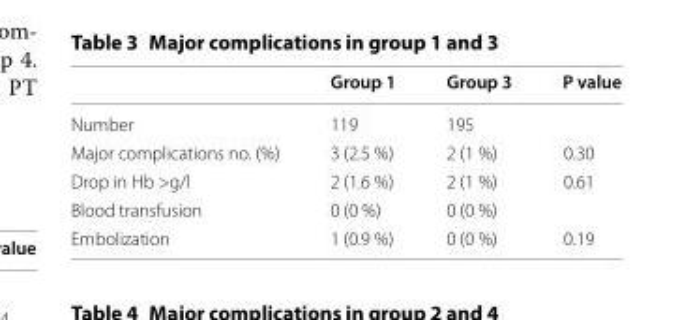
<table><thead><tr><td></td><td>Group 1</td><td>Group 3</td><td>P value</td></tr></thead><tbody><tr><td>Number</td><td>119</td><td>195</td><td></td></tr><tr><td>Major complications no. (%)</td><td>3 (2.5 %)</td><td>2 (1 %)</td><td>0.30</td></tr><tr><td>Drop in Hb &gt;g/l</td><td>2 (1.6 %)</td><td>2 (1 %)</td><td>0.61</td></tr><tr><td>Blood transfusion</td><td>0 (0 %)</td><td>0 (0 %)</td><td></td></tr><tr><td>Embolization</td><td>1 (0.9 %)</td><td>0 (0 %)</td><td>0.19</td></tr></tbody></table>